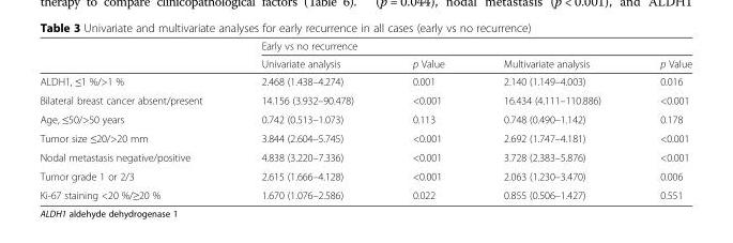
<table><thead><tr><td rowspan="2"></td><td colspan="4">Early vs no recurrence</td></tr><tr><td>Univariate analysis</td><td>p Value</td><td>Multivariate analysis</td><td>p Value</td></tr></thead><tbody><tr><td>ALDH1, ≤1 %/&gt;1 %</td><td>2.468 (1.438–4.274)</td><td>0.001</td><td>2.140 (1.149–4.003)</td><td>0.016</td></tr><tr><td>Bilateral breast cancer absent/present</td><td>14.156 (3.932–90.478)</td><td>&lt;0.001</td><td>16.434 (4.111–110.886)</td><td>&lt;0.001</td></tr><tr><td>Age, ≤50/&gt;50 years</td><td>0.742 (0.513–1.073)</td><td>0.113</td><td>0.748 (0.490–1.142)</td><td>0.178</td></tr><tr><td>Tumor size ≤20/&gt;20 mm</td><td>3.844 (2.604–5.745)</td><td>&lt;0.001</td><td>2.692 (1.747–4.181)</td><td>&lt;0.001</td></tr><tr><td>Nodal metastasis negative/positive</td><td>4.838 (3.220–7.336)</td><td>&lt;0.001</td><td>3.728 (2.383–5.876)</td><td>&lt;0.001</td></tr><tr><td>Tumor grade 1 or 2/3</td><td>2.615 (1.666–4.128)</td><td>&lt;0.001</td><td>2.063 (1.230–3.470)</td><td>0.006</td></tr><tr><td>Ki-67 staining &lt;20 %/≥20 %</td><td>1.670 (1.076–2.586)</td><td>0.022</td><td>0.855 (0.506–1.427)</td><td>0.551</td></tr></tbody></table>